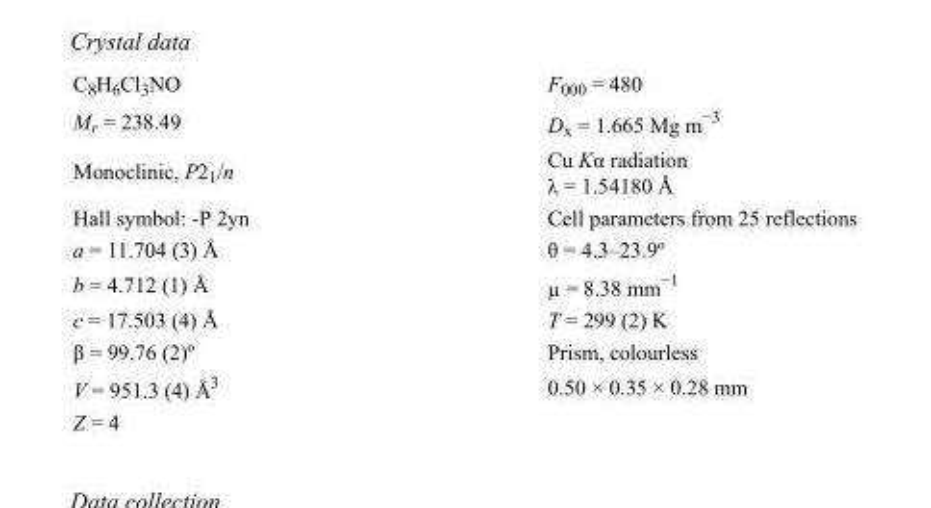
<table><tbody><tr><td>C<sub>8</sub>H<sub>6</sub>Cl<sub>3</sub>NO</td><td>F<sub>000</sub> = 480</td></tr><tr><td>M<sub>r</sub> = 238.49</td><td>D<sub>x</sub> = 1.665 Mg m<sup>−3</sup></td></tr><tr><td>Monoclinic, P2<sub>1</sub>/n</td><td>Cu Kα radiation λ = 1.54180 Å</td></tr><tr><td>Hall symbol: -P 2yn</td><td>Cell parameters from 25 reflections</td></tr><tr><td>a = 11.704 (3) Å</td><td>θ = 4.3–23.9º</td></tr><tr><td>b = 4.712 (1) Å</td><td>µ = 8.38 mm<sup>−1</sup></td></tr><tr><td>c = 17.503 (4) Å</td><td>T = 299 (2) K</td></tr><tr><td>β = 99.76 (2)º</td><td>Prism, colourless</td></tr><tr><td>V = 951.3 (4) Å<sup>3</sup></td><td>0.50 × 0.35 × 0.28 mm</td></tr><tr><td>Z = 4</td><td></td></tr></tbody></table>